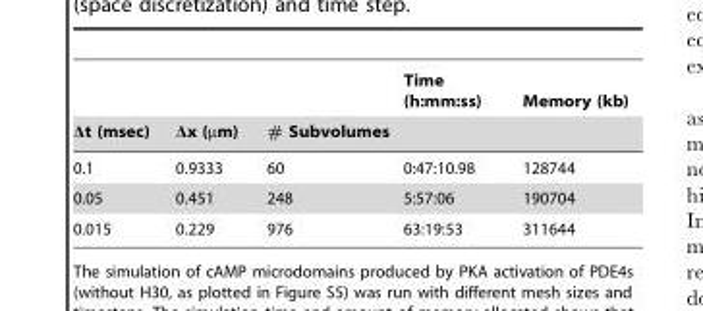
<table><thead><tr><td rowspan="2">Δt (msec)</td><td rowspan="2">Δx (µm)</td><td rowspan="2"># Subvolumes</td><td rowspan="2">Time (h:mm:ss)</td><td rowspan="2">Memory (kb)</td></tr><tr></tr></thead><tbody><tr><td>0.1</td><td>0.9333</td><td>60</td><td>0:47:10.98</td><td>128744</td></tr><tr><td>0.05</td><td>0.451</td><td>248</td><td>5:57:06</td><td>190704</td></tr><tr><td>0.015</td><td>0.229</td><td>976</td><td>63:19:53</td><td>311644</td></tr></tbody></table>